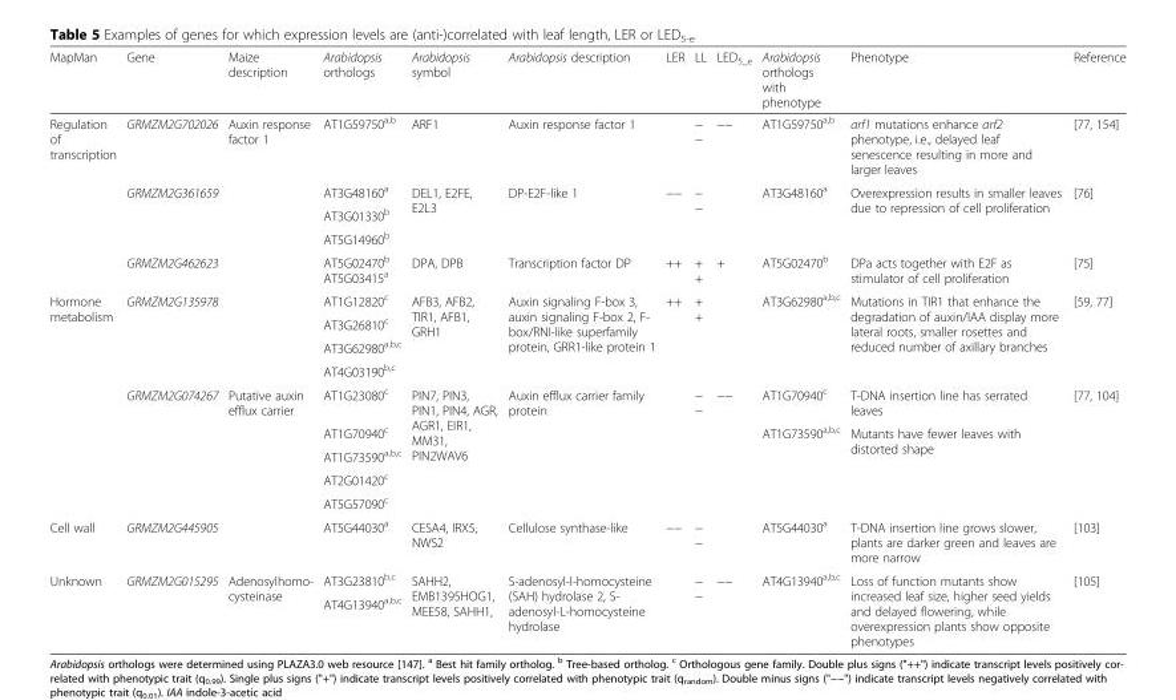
<table><thead><tr><td>MapMan</td><td>Gene</td><td>Maize description</td><td>Arabidopsis orthologs</td><td>Arabidopsis symbol</td><td>Arabidopsis description</td><td>LER</td><td>LL</td><td>LED<sub>5_e</sub></td><td>Arabidopsis orthologs with phenotype</td><td>Phenotype</td><td>Reference</td></tr></thead><tbody><tr><td rowspan="5">Regulation of transcription</td><td>GRMZM2G702026</td><td>Auxin response factor 1</td><td>AT1G59750<sup>a,b</sup></td><td>ARF1</td><td>Auxin response factor 1</td><td></td><td>− −</td><td>−−</td><td>AT1G59750<sup>a,b</sup></td><td>arf1 mutations enhance arf2 phenotype, i.e., delayed leaf senescence resulting in more and larger leaves</td><td>[77, 154]</td></tr><tr><td rowspan="3">GRMZM2G361659</td><td rowspan="3"></td><td>AT3G48160<sup>a</sup></td><td rowspan="3">DEL1, E2FE, E2L3</td><td rowspan="3">DP-E2F-like 1</td><td rowspan="3">−−</td><td rowspan="3">− −</td><td rowspan="3"></td><td rowspan="3">AT3G48160<sup>a</sup></td><td rowspan="3">Overexpression results in smaller leaves due to repression of cell proliferation</td><td rowspan="3">[76]</td></tr><tr><td>AT3G01330<sup>b</sup></td></tr><tr><td>AT5G14960<sup>b</sup></td></tr><tr><td>GRMZM2G462623</td><td></td><td>AT5G02470<sup>b</sup> AT5G03415<sup>a</sup></td><td>DPA, DPB</td><td>Transcription factor DP</td><td>++</td><td>+ +</td><td>+</td><td>AT5G02470<sup>b</sup></td><td>DPa acts together with E2F as stimulator of cell proliferation</td><td>[75]</td></tr><tr><td rowspan="9">Hormone metabolism</td><td rowspan="4">GRMZM2G135978</td><td rowspan="4"></td><td>AT1G12820<sup>c</sup></td><td rowspan="4">AFB3, AFB2, TIR1, AFB1, GRH1</td><td rowspan="4">Auxin signaling F-box 3, auxin signaling F-box 2, F- box/RNI-like superfamily protein, GRR1-like protein 1</td><td rowspan="4">++</td><td rowspan="4">+ +</td><td rowspan="4"></td><td rowspan="4">AT3G62980<sup>a,b,c</sup></td><td rowspan="4">Mutations in TIR1 that enhance the degradation of auxin/IAA display more lateral roots, smaller rosettes and reduced number of axillary branches</td><td rowspan="4">[59, 77]</td></tr><tr><td>AT3G26810<sup>c</sup></td></tr><tr><td>AT3G62980<sup>a,b,c</sup></td></tr><tr><td>AT4G03190<sup>b,c</sup></td></tr><tr><td rowspan="5">GRMZM2G074267</td><td rowspan="5">Putative auxin efflux carrier</td><td>AT1G23080<sup>c</sup></td><td rowspan="5">PIN7, PIN3, PIN1, PIN4, AGR, AGR1, EIR1, MM31, PIN2WAV6</td><td rowspan="5">Auxin efflux carrier family protein</td><td rowspan="5"></td><td rowspan="5">− −</td><td rowspan="5">−−</td><td>AT1G70940<sup>c</sup></td><td>T-DNA insertion line has serrated leaves</td><td rowspan="5">[77, 104]</td></tr><tr><td>AT1G70940<sup>c</sup></td><td rowspan="4">AT1G73590<sup>a,b,c</sup></td><td rowspan="4">Mutants have fewer leaves with distorted shape</td></tr><tr><td>AT1G73590<sup>a,b,c</sup></td></tr><tr><td>AT2G01420<sup>c</sup></td></tr><tr><td>AT5G57090<sup>c</sup></td></tr><tr><td>Cell wall</td><td>GRMZM2G445905</td><td></td><td>AT5G44030<sup>a</sup></td><td>CESA4, IRX5, NWS2</td><td>Cellulose synthase-like</td><td>−−</td><td>− −</td><td></td><td>AT5G44030<sup>a</sup></td><td>T-DNA insertion line grows slower, plants are darker green and leaves are more narrow</td><td>[103]</td></tr><tr><td rowspan="2">Unknown</td><td rowspan="2">GRMZM2G015295</td><td rowspan="2">Adenosylhomo- cysteinase</td><td>AT3G23810<sup>b,c</sup></td><td rowspan="2">SAHH2, EMB1395HOG1, MEE58, SAHH1,</td><td rowspan="2">S-adenosyl-l-homocysteine (SAH) hydrolase 2, S- adenosyl-L-homocysteine hydrolase</td><td rowspan="2"></td><td rowspan="2">− −</td><td rowspan="2">−−</td><td rowspan="2">AT4G13940<sup>a,b,c</sup></td><td rowspan="2">Loss of function mutants show increased leaf size, higher seed yields and delayed flowering, while overexpression plants show opposite phenotypes</td><td rowspan="2">[105]</td></tr><tr><td>AT4G13940<sup>a,b,c</sup></td></tr></tbody></table>